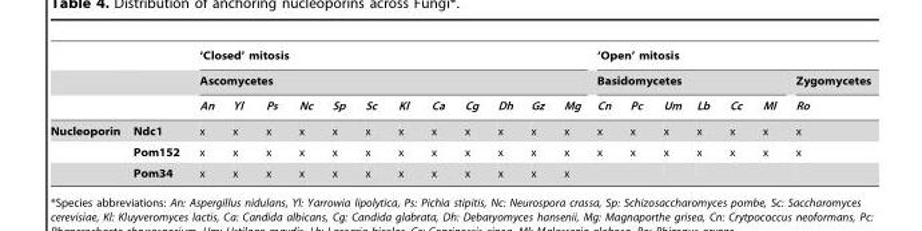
<table><thead><tr><td rowspan="3"></td><td rowspan="3"></td><td rowspan="2" colspan="12">‘Closed’ mitosis Ascomycetes</td><td colspan="7">‘Open’ mitosis</td></tr><tr><td colspan="6">Basidomycetes</td><td rowspan="2">Zygomycetes Ro</td></tr><tr><td>An</td><td>Yl</td><td>Ps</td><td>Nc</td><td>Sp</td><td>Sc</td><td>Kl</td><td>Ca</td><td>Cg</td><td>Dh</td><td>Gz</td><td>Mg</td><td>Cn</td><td>Pc</td><td>Um</td><td>Lb</td><td>Cc</td><td>Ml</td></tr></thead><tbody><tr><td rowspan="3">Nucleoporin</td><td>Ndc1</td><td>x</td><td>x</td><td>x</td><td>x</td><td>x</td><td>x</td><td>x</td><td>x</td><td>x</td><td>x</td><td>x</td><td>x</td><td>x</td><td>x</td><td>x</td><td>x</td><td>x</td><td>x</td><td>x</td></tr><tr><td>Pom152</td><td>x</td><td>x</td><td>x</td><td>x</td><td>x</td><td>x</td><td>x</td><td>x</td><td>x</td><td>x</td><td>x</td><td>x</td><td>x</td><td>x</td><td>x</td><td>x</td><td>x</td><td>x</td><td>x</td></tr><tr><td>Pom34</td><td>x</td><td>x</td><td>x</td><td>x</td><td>x</td><td>x</td><td>x</td><td>x</td><td>x</td><td>x</td><td>x</td><td>x</td><td></td><td></td><td></td><td></td><td></td><td></td><td></td></tr></tbody></table>